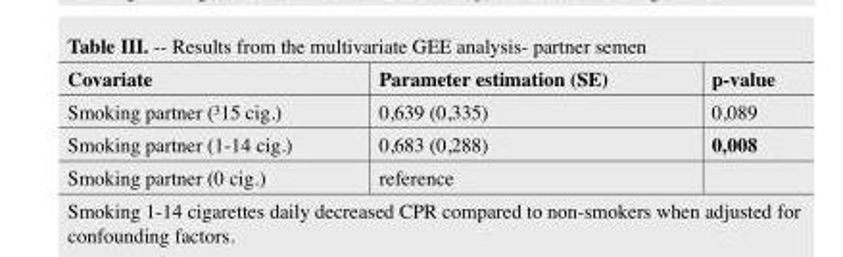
<table><thead><tr><td>Covariate</td><td>Parameter estimation (SE)</td><td>p-value</td></tr></thead><tbody><tr><td>Smoking partner (³15 cig.)</td><td>0,639 (0,335)</td><td>0,089</td></tr><tr><td>Smoking partner (1-14 cig.)</td><td>0,683 (0,288)</td><td>0,008</td></tr><tr><td>Smoking partner (0 cig.)</td><td>reference</td><td></td></tr></tbody></table>